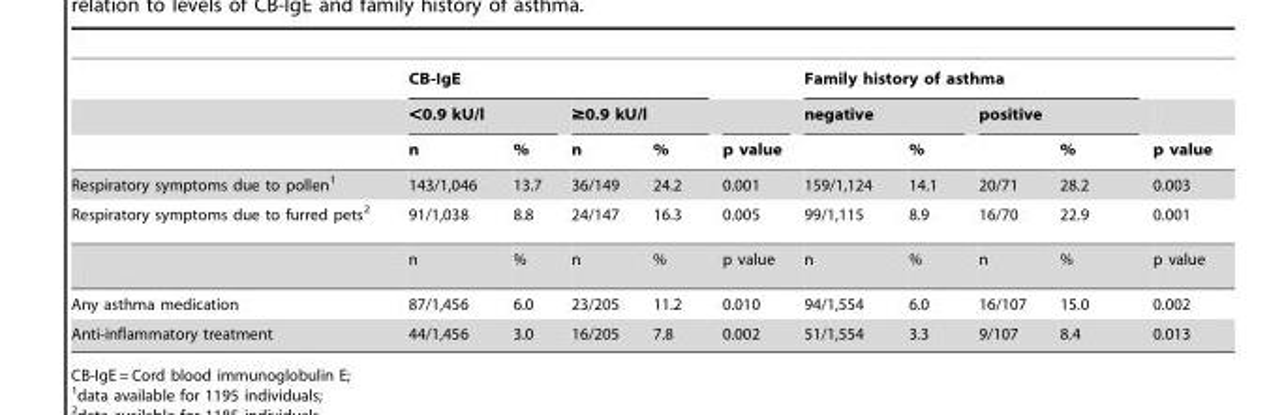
<table><thead><tr><td rowspan="3"></td><td colspan="4">CB-IgE</td><td rowspan="3">p value</td><td colspan="4">Family history of asthma</td><td rowspan="3">p value</td></tr><tr><td colspan="2">&lt;0.9 kU/l</td><td colspan="2">≥0.9 kU/l</td><td colspan="2">negative</td><td colspan="2">positive</td></tr><tr><td>n</td><td>%</td><td>n</td><td>%</td><td></td><td>%</td><td></td><td>%</td></tr></thead><tbody><tr><td>Respiratory symptoms due to pollen<sup>1</sup></td><td>143/1,046</td><td>13.7</td><td>36/149</td><td>24.2</td><td>0.001</td><td>159/1,124</td><td>14.1</td><td>20/71</td><td>28.2</td><td>0.003</td></tr><tr><td rowspan="2">Respiratory symptoms due to furred pets<sup>2</sup></td><td>91/1,038</td><td>8.8</td><td>24/147</td><td>16.3</td><td>0.005</td><td>99/1,115</td><td>8.9</td><td>16/70</td><td>22.9</td><td>0.001</td></tr><tr><td>n</td><td>%</td><td>n</td><td>%</td><td>p value</td><td>n</td><td>%</td><td>n</td><td>%</td><td>p value</td></tr><tr><td>Any asthma medication</td><td>87/1,456</td><td>6.0</td><td>23/205</td><td>11.2</td><td>0.010</td><td>94/1,554</td><td>6.0</td><td>16/107</td><td>15.0</td><td>0.002</td></tr><tr><td>Anti-inflammatory treatment</td><td>44/1,456</td><td>3.0</td><td>16/205</td><td>7.8</td><td>0.002</td><td>51/1,554</td><td>3.3</td><td>9/107</td><td>8.4</td><td>0.013</td></tr></tbody></table>